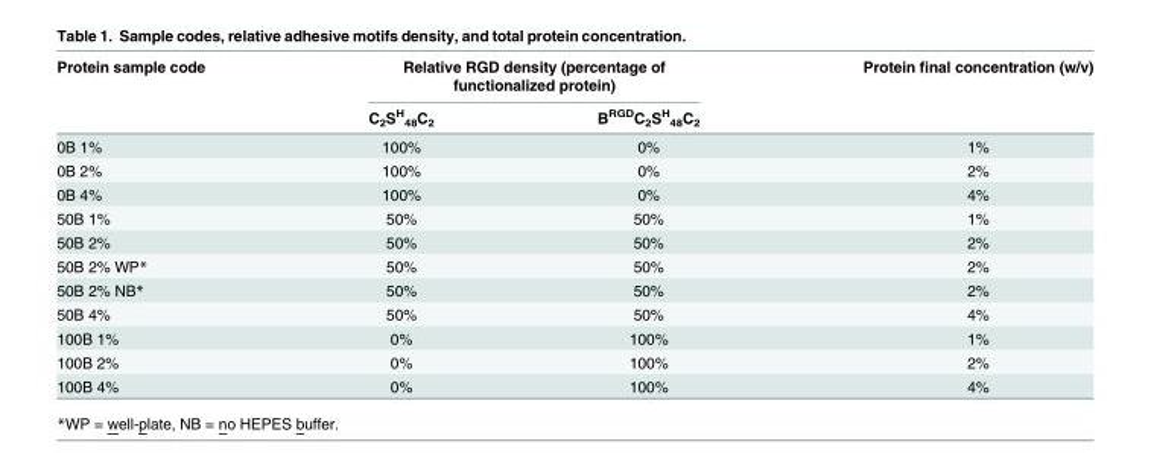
<table><thead><tr><td rowspan="2">Protein sample code</td><td colspan="2">Relative RGD density (percentage of functionalized protein)</td><td rowspan="2">Protein final concentration (w/v)</td></tr><tr><td>C<sub>2</sub>S<sup>H</sup> <sub>48</sub>C<sub>2</sub></td><td>B<sup>RGD</sup>C<sub>2</sub>S<sup>H</sup> <sub>48</sub>C<sub>2</sub></td></tr></thead><tbody><tr><td>0B 1%</td><td>100%</td><td>0%</td><td>1%</td></tr><tr><td>0B 2%</td><td>100%</td><td>0%</td><td>2%</td></tr><tr><td>0B 4%</td><td>100%</td><td>0%</td><td>4%</td></tr><tr><td>50B 1%</td><td>50%</td><td>50%</td><td>1%</td></tr><tr><td>50B 2%</td><td>50%</td><td>50%</td><td>2%</td></tr><tr><td>50B 2% WP*</td><td>50%</td><td>50%</td><td>2%</td></tr><tr><td>50B 2% NB*</td><td>50%</td><td>50%</td><td>2%</td></tr><tr><td>50B 4%</td><td>50%</td><td>50%</td><td>4%</td></tr><tr><td>100B 1%</td><td>0%</td><td>100%</td><td>1%</td></tr><tr><td>100B 2%</td><td>0%</td><td>100%</td><td>2%</td></tr><tr><td>100B 4%</td><td>0%</td><td>100%</td><td>4%</td></tr></tbody></table>